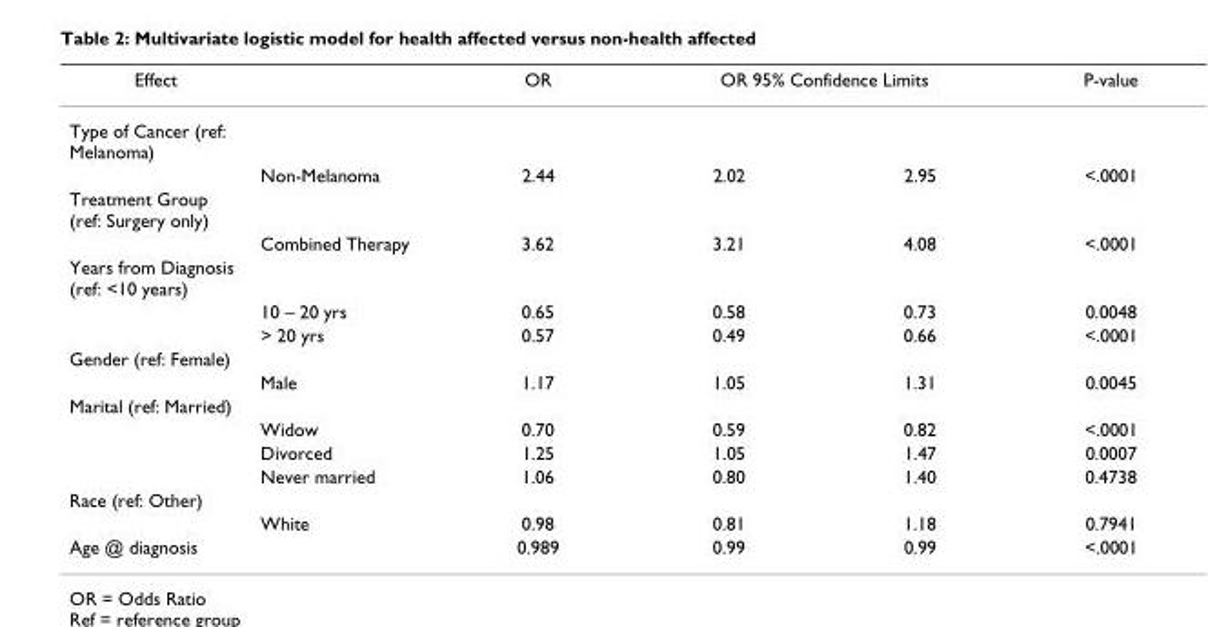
<table><thead><tr><td rowspan="2">Effect Type of Cancer (ref: Melanoma)</td><td rowspan="2"></td><td rowspan="2">OR</td><td colspan="2">OR 95% Confidence Limits</td><td rowspan="2">P-value</td></tr><tr><td></td><td></td></tr></thead><tbody><tr><td></td><td>Non-Melanoma</td><td>2.44</td><td>2.02</td><td>2.95</td><td>&lt;.0001</td></tr><tr><td colspan="6">Treatment Group (ref: Surgery only)</td></tr><tr><td></td><td>Combined Therapy</td><td>3.62</td><td>3.21</td><td>4.08</td><td>&lt;.0001</td></tr><tr><td colspan="6">Years from Diagnosis (ref: &lt;10 years)</td></tr><tr><td></td><td>10 – 20 yrs</td><td>0.65</td><td>0.58</td><td>0.73</td><td>0.0048</td></tr><tr><td></td><td>&gt; 20 yrs</td><td>0.57</td><td>0.49</td><td>0.66</td><td>&lt;.0001</td></tr><tr><td colspan="6">Gender (ref: Female)</td></tr><tr><td></td><td>Male</td><td>1.17</td><td>1.05</td><td>1.31</td><td>0.0045</td></tr><tr><td colspan="6">Marital (ref: Married)</td></tr><tr><td></td><td>Widow</td><td>0.70</td><td>0.59</td><td>0.82</td><td>&lt;.0001</td></tr><tr><td></td><td>Divorced</td><td>1.25</td><td>1.05</td><td>1.47</td><td>0.0007</td></tr><tr><td></td><td>Never married</td><td>1.06</td><td>0.80</td><td>1.40</td><td>0.4738</td></tr><tr><td colspan="6">Race (ref: Other)</td></tr><tr><td></td><td>White</td><td>0.98</td><td>0.81</td><td>1.18</td><td>0.7941</td></tr><tr><td>Age @ diagnosis</td><td></td><td>0.989</td><td>0.99</td><td>0.99</td><td>&lt;.0001</td></tr></tbody></table>